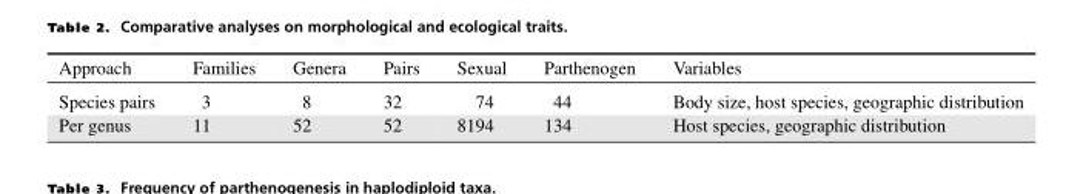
<table><thead><tr><td>Approach</td><td>Families</td><td>Genera</td><td>Pairs</td><td>Sexual</td><td>Parthenogen</td><td>Variables</td></tr></thead><tbody><tr><td>Species pairs</td><td>3</td><td>8</td><td>32</td><td>74</td><td>44</td><td>Body size, host species, geographic distribution</td></tr><tr><td>Per genus</td><td>11</td><td>52</td><td>52</td><td>8194</td><td>134</td><td>Host species, geographic distribution</td></tr></tbody></table>